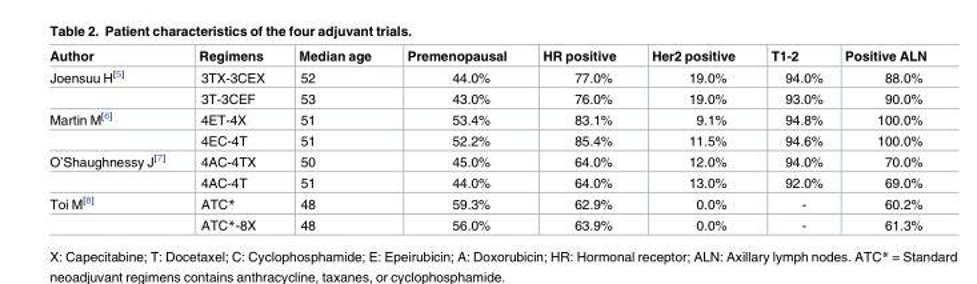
<table><thead><tr><td>Author</td><td>Regimens</td><td>Median age</td><td>Premenopausal</td><td>HR positive</td><td>Her2 positive</td><td>T1-2</td><td>Positive ALN</td></tr></thead><tbody><tr><td rowspan="2">Joensuu H<sup>[5]</sup></td><td>3TX-3CEX</td><td>52</td><td>44.0%</td><td>77.0%</td><td>19.0%</td><td>94.0%</td><td>88.0%</td></tr><tr><td>3T-3CEF</td><td>53</td><td>43.0%</td><td>76.0%</td><td>19.0%</td><td>93.0%</td><td>90.0%</td></tr><tr><td rowspan="2">Martin M<sup>[6]</sup></td><td>4ET-4X</td><td>51</td><td>53.4%</td><td>83.1%</td><td>9.1%</td><td>94.8%</td><td>100.0%</td></tr><tr><td>4EC-4T</td><td>51</td><td>52.2%</td><td>85.4%</td><td>11.5%</td><td>94.6%</td><td>100.0%</td></tr><tr><td rowspan="2">O’Shaughnessy J<sup>[7]</sup></td><td>4AC-4TX</td><td>50</td><td>45.0%</td><td>64.0%</td><td>12.0%</td><td>94.0%</td><td>70.0%</td></tr><tr><td>4AC-4T</td><td>51</td><td>44.0%</td><td>64.0%</td><td>13.0%</td><td>92.0%</td><td>69.0%</td></tr><tr><td rowspan="2">Toi M<sup>[8]</sup></td><td>ATC*</td><td>48</td><td>59.3%</td><td>62.9%</td><td>0.0%</td><td>-</td><td>60.2%</td></tr><tr><td>ATC*-8X</td><td>48</td><td>56.0%</td><td>63.9%</td><td>0.0%</td><td>-</td><td>61.3%</td></tr></tbody></table>